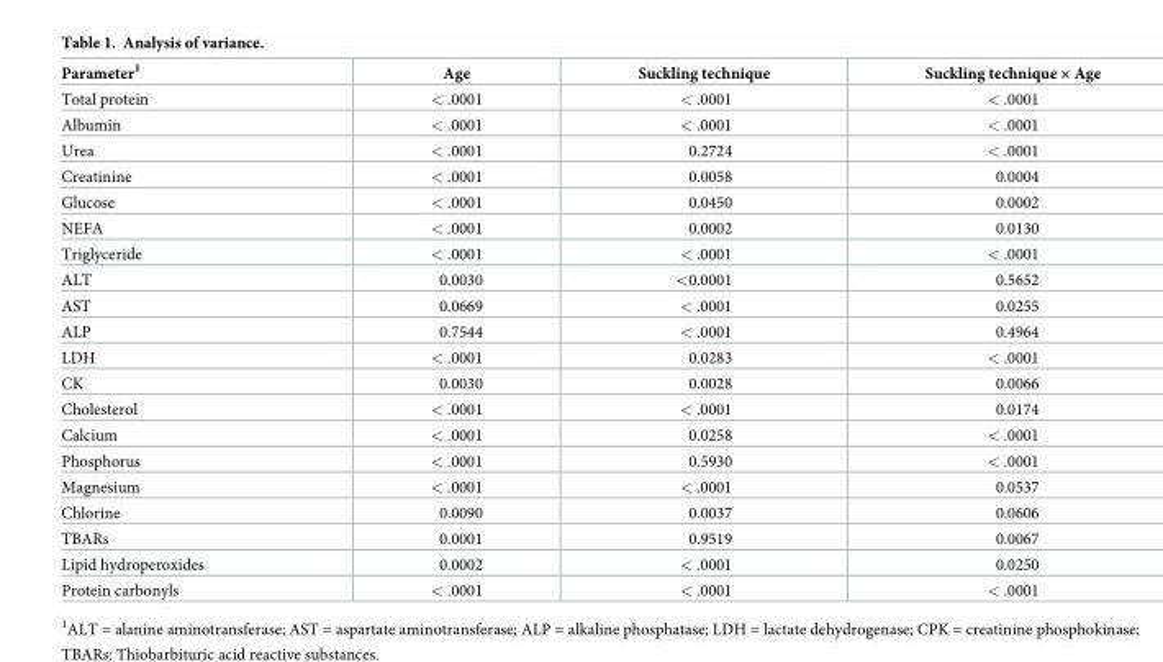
<table><thead><tr><td>Parameter<sup>1</sup></td><td>Age</td><td>Suckling technique</td><td>Suckling technique × Age</td></tr></thead><tbody><tr><td>Total protein</td><td>&lt; .0001</td><td>&lt; .0001</td><td>&lt; .0001</td></tr><tr><td>Albumin</td><td>&lt; .0001</td><td>&lt; .0001</td><td>&lt; .0001</td></tr><tr><td>Urea</td><td>&lt; .0001</td><td>0.2724</td><td>&lt; .0001</td></tr><tr><td>Creatinine</td><td>&lt; .0001</td><td>0.0058</td><td>0.0004</td></tr><tr><td>Glucose</td><td>&lt; .0001</td><td>0.0450</td><td>0.0002</td></tr><tr><td>NEFA</td><td>&lt; .0001</td><td>0.0002</td><td>0.0130</td></tr><tr><td>Triglyceride</td><td>&lt; .0001</td><td>&lt; .0001</td><td>&lt; .0001</td></tr><tr><td>ALT</td><td>0.0030</td><td>&lt;0.0001</td><td>0.5652</td></tr><tr><td>AST</td><td>0.0669</td><td>&lt; .0001</td><td>0.0255</td></tr><tr><td>ALP</td><td>0.7544</td><td>&lt; .0001</td><td>0.4964</td></tr><tr><td>LDH</td><td>&lt; .0001</td><td>0.0283</td><td>&lt; .0001</td></tr><tr><td>CK</td><td>0.0030</td><td>0.0028</td><td>0.0066</td></tr><tr><td>Cholesterol</td><td>&lt; .0001</td><td>&lt; .0001</td><td>0.0174</td></tr><tr><td>Calcium</td><td>&lt; .0001</td><td>0.0258</td><td>&lt; .0001</td></tr><tr><td>Phosphorus</td><td>&lt; .0001</td><td>0.5930</td><td>&lt; .0001</td></tr><tr><td>Magnesium</td><td>&lt; .0001</td><td>&lt; .0001</td><td>0.0537</td></tr><tr><td>Chlorine</td><td>0.0090</td><td>0.0037</td><td>0.0606</td></tr><tr><td>TBARs</td><td>0.0001</td><td>0.9519</td><td>0.0067</td></tr><tr><td>Lipid hydroperoxides</td><td>0.0002</td><td>&lt; .0001</td><td>0.0250</td></tr><tr><td>Protein carbonyls</td><td>&lt; .0001</td><td>&lt; .0001</td><td>&lt; .0001</td></tr></tbody></table>